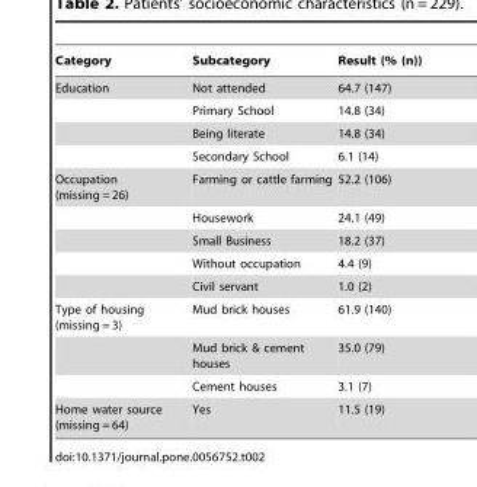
<table><thead><tr><td>Category</td><td>Subcategory</td><td>Result (% (n))</td></tr></thead><tbody><tr><td rowspan="4">Education</td><td>Not attended</td><td>64.7 (147)</td></tr><tr><td>Primary School</td><td>14.8 (34)</td></tr><tr><td>Being literate</td><td>14.8 (34)</td></tr><tr><td>Secondary School</td><td>6.1 (14)</td></tr><tr><td rowspan="5">Occupation (missing = 26)</td><td>Farming or cattle farming</td><td>52.2 (106)</td></tr><tr><td>Housework</td><td>24.1 (49)</td></tr><tr><td>Small Business</td><td>18.2 (37)</td></tr><tr><td>Without occupation</td><td>4.4 (9)</td></tr><tr><td>Civil servant</td><td>1.0 (2)</td></tr><tr><td rowspan="3">Type of housing (missing = 3)</td><td>Mud brick houses</td><td>61.9 (140)</td></tr><tr><td>Mud brick &amp; cement houses</td><td>35.0 (79)</td></tr><tr><td>Cement houses</td><td>3.1 (7)</td></tr><tr><td>Home water source (missing = 64)</td><td>Yes</td><td>11.5 (19)</td></tr></tbody></table>